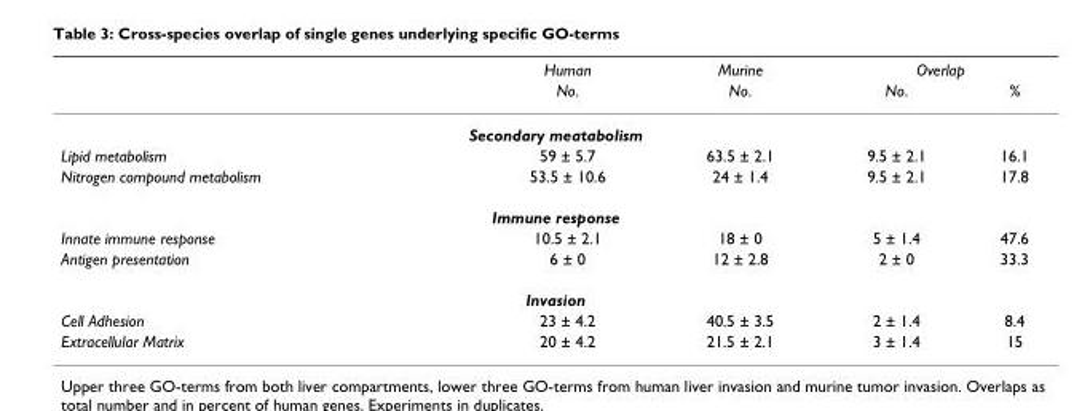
<table><thead><tr><td rowspan="2"></td><td rowspan="2">Human No.</td><td rowspan="2">Murine No.</td><td colspan="2">Overlap</td></tr><tr><td>No.</td><td>%</td></tr></thead><tbody><tr><td colspan="5">Secondary meatabolism</td></tr><tr><td>Lipid metabolism</td><td>59 ± 5.7</td><td>63.5 ± 2.1</td><td>9.5 ± 2.1</td><td>16.1</td></tr><tr><td>Nitrogen compound metabolism</td><td>53.5 ± 10.6</td><td>24 ± 1.4</td><td>9.5 ± 2.1</td><td>17.8</td></tr><tr><td colspan="5">Immune response</td></tr><tr><td>Innate immune response</td><td>10.5 ± 2.1</td><td>18 ± 0</td><td>5 ± 1.4</td><td>47.6</td></tr><tr><td>Antigen presentation</td><td>6 ± 0</td><td>12 ± 2.8</td><td>2 ± 0</td><td>33.3</td></tr><tr><td colspan="5">Invasion</td></tr><tr><td>Cell Adhesion</td><td>23 ± 4.2</td><td>40.5 ± 3.5</td><td>2 ± 1.4</td><td>8.4</td></tr><tr><td>Extracellular Matrix</td><td>20 ± 4.2</td><td>21.5 ± 2.1</td><td>3 ± 1.4</td><td>15</td></tr></tbody></table>